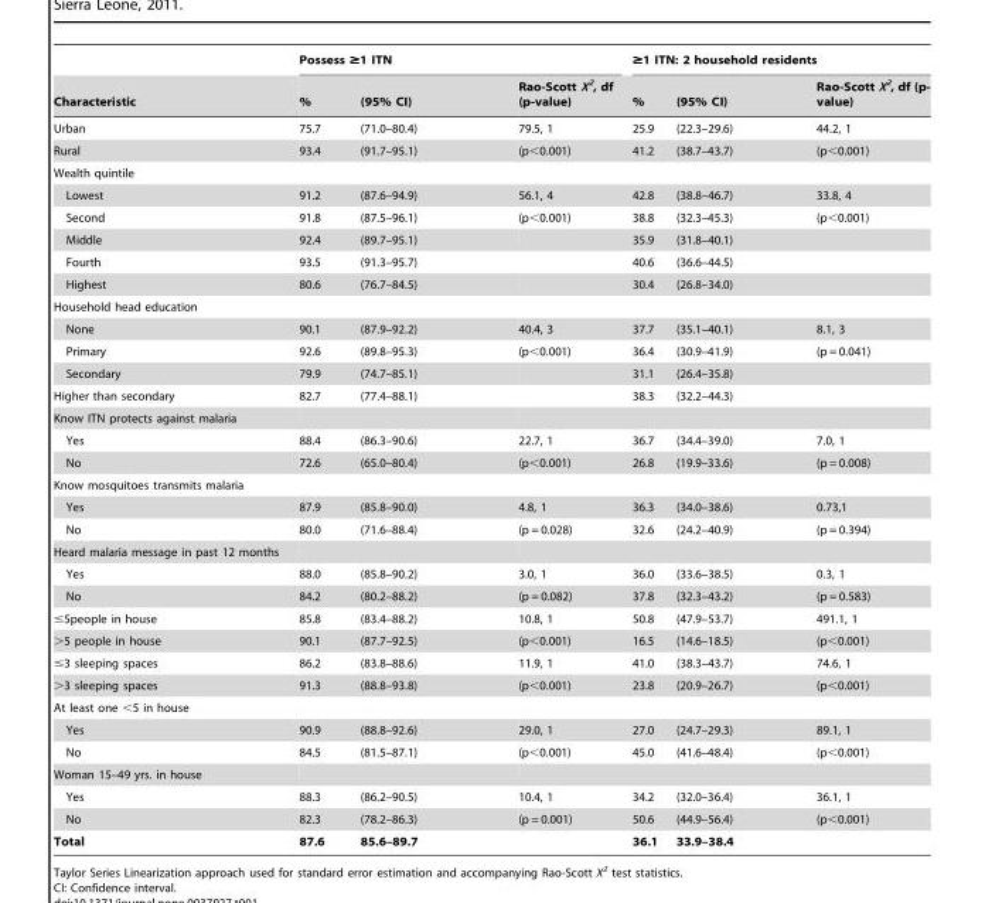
<table><thead><tr><td rowspan="2">Characteristic</td><td colspan="3">Possess ≥1 ITN</td><td colspan="3">≥1 ITN: 2 household residents</td></tr><tr><td>%</td><td>(95% CI)</td><td>Rao-Scott X<sup>2</sup>, df (p-value)</td><td>%</td><td>(95% CI)</td><td>Rao-Scott X<sup>2</sup>, df (p- value)</td></tr></thead><tbody><tr><td>Urban</td><td>75.7</td><td>(71.0–80.4)</td><td>79.5, 1</td><td>25.9</td><td>(22.3–29.6)</td><td>44.2, 1</td></tr><tr><td>Rural</td><td>93.4</td><td>(91.7–95.1)</td><td>(p&lt;0.001)</td><td>41.2</td><td>(38.7–43.7)</td><td>(p&lt;0.001)</td></tr><tr><td colspan="7">Wealth quintile</td></tr><tr><td>Lowest</td><td>91.2</td><td>(87.6–94.9)</td><td>56.1, 4</td><td>42.8</td><td>(38.8–46.7)</td><td>33.8, 4</td></tr><tr><td>Second</td><td>91.8</td><td>(87.5–96.1)</td><td>(p&lt;0.001)</td><td>38.8</td><td>(32.3–45.3)</td><td>(p&lt;0.001)</td></tr><tr><td>Middle</td><td>92.4</td><td>(89.7–95.1)</td><td></td><td>35.9</td><td>(31.8–40.1)</td><td></td></tr><tr><td>Fourth</td><td>93.5</td><td>(91.3–95.7)</td><td></td><td>40.6</td><td>(36.6–44.5)</td><td></td></tr><tr><td>Highest</td><td>80.6</td><td>(76.7–84.5)</td><td></td><td>30.4</td><td>(26.8–34.0)</td><td></td></tr><tr><td colspan="7">Household head education</td></tr><tr><td>None</td><td>90.1</td><td>(87.9–92.2)</td><td>40.4, 3</td><td>37.7</td><td>(35.1–40.1)</td><td>8.1, 3</td></tr><tr><td>Primary</td><td>92.6</td><td>(89.8–95.3)</td><td>(p&lt;0.001)</td><td>36.4</td><td>(30.9–41.9)</td><td>(p = 0.041)</td></tr><tr><td>Secondary</td><td>79.9</td><td>(74.7–85.1)</td><td></td><td>31.1</td><td>(26.4–35.8)</td><td></td></tr><tr><td>Higher than secondary</td><td>82.7</td><td>(77.4–88.1)</td><td></td><td>38.3</td><td>(32.2–44.3)</td><td></td></tr><tr><td colspan="7">Know ITN protects against malaria</td></tr><tr><td>Yes</td><td>88.4</td><td>(86.3–90.6)</td><td>22.7, 1</td><td>36.7</td><td>(34.4–39.0)</td><td>7.0, 1</td></tr><tr><td>No</td><td>72.6</td><td>(65.0–80.4)</td><td>(p&lt;0.001)</td><td>26.8</td><td>(19.9–33.6)</td><td>(p = 0.008)</td></tr><tr><td colspan="7">Know mosquitoes transmits malaria</td></tr><tr><td>Yes</td><td>87.9</td><td>(85.8–90.0)</td><td>4.8, 1</td><td>36.3</td><td>(34.0–38.6)</td><td>0.73,1</td></tr><tr><td>No</td><td>80.0</td><td>(71.6–88.4)</td><td>(p = 0.028)</td><td>32.6</td><td>(24.2–40.9)</td><td>(p = 0.394)</td></tr><tr><td colspan="7">Heard malaria message in past 12 months</td></tr><tr><td>Yes</td><td>88.0</td><td>(85.8–90.2)</td><td>3.0, 1</td><td>36.0</td><td>(33.6–38.5)</td><td>0.3, 1</td></tr><tr><td>No</td><td>84.2</td><td>(80.2–88.2)</td><td>(p = 0.082)</td><td>37.8</td><td>(32.3–43.2)</td><td>(p = 0.583)</td></tr><tr><td>≤5people in house</td><td>85.8</td><td>(83.4–88.2)</td><td>10.8, 1</td><td>50.8</td><td>(47.9–53.7)</td><td>491.1, 1</td></tr><tr><td>&gt;5 people in house</td><td>90.1</td><td>(87.7–92.5)</td><td>(p&lt;0.001)</td><td>16.5</td><td>(14.6–18.5)</td><td>(p&lt;0.001)</td></tr><tr><td>≤3 sleeping spaces</td><td>86.2</td><td>(83.8–88.6)</td><td>11.9, 1</td><td>41.0</td><td>(38.3–43.7)</td><td>74.6, 1</td></tr><tr><td>&gt;3 sleeping spaces</td><td>91.3</td><td>(88.8–93.8)</td><td>(p&lt;0.001)</td><td>23.8</td><td>(20.9–26.7)</td><td>(p&lt;0.001)</td></tr><tr><td colspan="7">At least one &lt;5 in house</td></tr><tr><td>Yes</td><td>90.9</td><td>(88.8–92.6)</td><td>29.0, 1</td><td>27.0</td><td>(24.7–29.3)</td><td>89.1, 1</td></tr><tr><td>No</td><td>84.5</td><td>(81.5–87.1)</td><td>(p&lt;0.001)</td><td>45.0</td><td>(41.6–48.4)</td><td>(p&lt;0.001)</td></tr><tr><td colspan="7">Woman 15–49 yrs. in house</td></tr><tr><td>Yes</td><td>88.3</td><td>(86.2–90.5)</td><td>10.4, 1</td><td>34.2</td><td>(32.0–36.4)</td><td>36.1, 1</td></tr><tr><td>No</td><td>82.3</td><td>(78.2–86.3)</td><td>(p = 0.001)</td><td>50.6</td><td>(44.9–56.4)</td><td>(p&lt;0.001)</td></tr><tr><td>Total</td><td>87.6</td><td>85.6–89.7</td><td></td><td>36.1</td><td>33.9–38.4</td><td></td></tr></tbody></table>